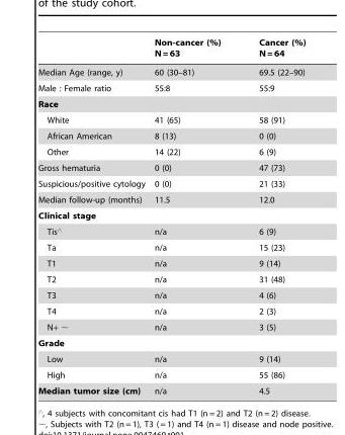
<table><thead><tr><td></td><td>Non-cancer (%) N = 63</td><td>Cancer (%) N = 64</td></tr></thead><tbody><tr><td>Median Age (range, y)</td><td>60 (30–81)</td><td>69.5 (22–90)</td></tr><tr><td>Male : Female ratio</td><td>55:8</td><td>55:9</td></tr><tr><td colspan="3">Race</td></tr><tr><td>White</td><td>41 (65)</td><td>58 (91)</td></tr><tr><td>African American</td><td>8 (13)</td><td>0 (0)</td></tr><tr><td>Other</td><td>14 (22)</td><td>6 (9)</td></tr><tr><td>Gross hematuria</td><td>0 (0)</td><td>47 (73)</td></tr><tr><td>Suspicious/positive cytology</td><td>0 (0)</td><td>21 (33)</td></tr><tr><td>Median follow-up (months)</td><td>11.5</td><td>12.0</td></tr><tr><td colspan="3">Clinical stage</td></tr><tr><td>Tis‘</td><td>n/a</td><td>6 (9)</td></tr><tr><td>Ta</td><td>n/a</td><td>15 (23)</td></tr><tr><td>T1</td><td>n/a</td><td>9 (14)</td></tr><tr><td>T2</td><td>n/a</td><td>31 (48)</td></tr><tr><td>T3</td><td>n/a</td><td>4 (6)</td></tr><tr><td>T4</td><td>n/a</td><td>2 (3)</td></tr><tr><td>N+ ∼</td><td>n/a</td><td>3 (5)</td></tr><tr><td colspan="3">Grade</td></tr><tr><td>Low</td><td>n/a</td><td>9 (14)</td></tr><tr><td>High</td><td>n/a</td><td>55 (86)</td></tr><tr><td>Median tumor size (cm)</td><td>n/a</td><td>4.5</td></tr></tbody></table>